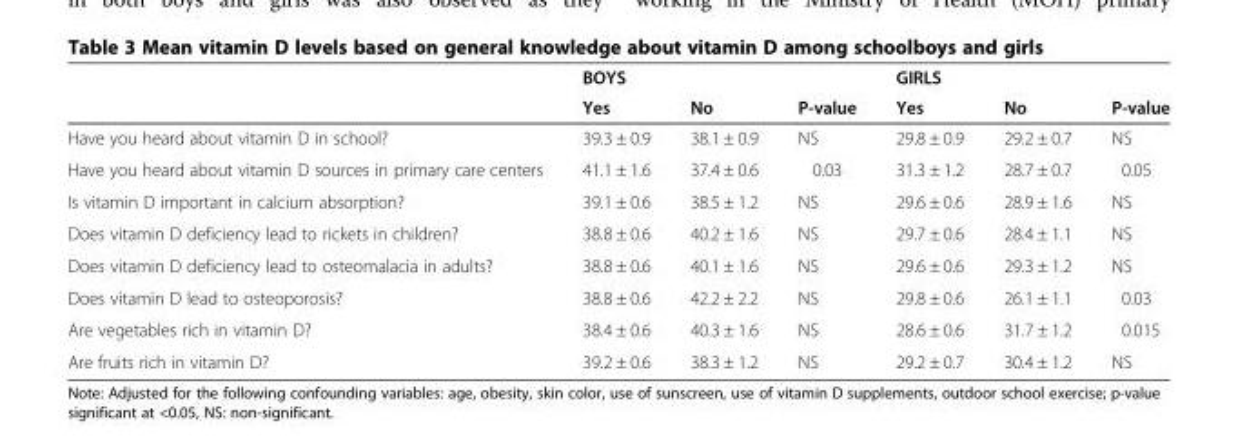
<table><thead><tr><td rowspan="2"></td><td colspan="3">BOYS</td><td colspan="3">GIRLS</td></tr><tr><td>Yes</td><td>No</td><td>P-value</td><td>Yes</td><td>No</td><td>P-value</td></tr></thead><tbody><tr><td>Have you heard about vitamin D in school?</td><td>39.3 ± 0.9</td><td>38.1 ± 0.9</td><td>NS</td><td>29.8 ± 0.9</td><td>29.2 ± 0.7</td><td>NS</td></tr><tr><td>Have you heard about vitamin D sources in primary care centers</td><td>41.1 ± 1.6</td><td>37.4 ± 0.6</td><td>0.03</td><td>31.3 ± 1.2</td><td>28.7 ± 0.7</td><td>0.05</td></tr><tr><td>Is vitamin D important in calcium absorption?</td><td>39.1 ± 0.6</td><td>38.5 ± 1.2</td><td>NS</td><td>29.6 ± 0.6</td><td>28.9 ± 1.6</td><td>NS</td></tr><tr><td>Does vitamin D deficiency lead to rickets in children?</td><td>38.8 ± 0.6</td><td>40.2 ± 1.6</td><td>NS</td><td>29.7 ± 0.6</td><td>28.4 ± 1.1</td><td>NS</td></tr><tr><td>Does vitamin D deficiency lead to osteomalacia in adults?</td><td>38.8 ± 0.6</td><td>40.1 ± 1.6</td><td>NS</td><td>29.6 ± 0.6</td><td>29.3 ± 1.2</td><td>NS</td></tr><tr><td>Does vitamin D lead to osteoporosis?</td><td>38.8 ± 0.6</td><td>42.2 ± 2.2</td><td>NS</td><td>29.8 ± 0.6</td><td>26.1 ± 1.1</td><td>0.03</td></tr><tr><td>Are vegetables rich in vitamin D?</td><td>38.4 ± 0.6</td><td>40.3 ± 1.6</td><td>NS</td><td>28.6 ± 0.6</td><td>31.7 ± 1.2</td><td>0.015</td></tr><tr><td>Are fruits rich in vitamin D?</td><td>39.2 ± 0.6</td><td>38.3 ± 1.2</td><td>NS</td><td>29.2 ± 0.7</td><td>30.4 ± 1.2</td><td>NS</td></tr></tbody></table>